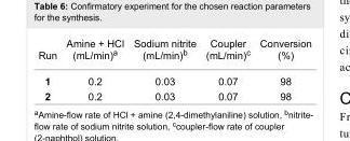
<table><tbody><tr><td>Run</td><td>Amine + HCl (mL/min)<sup>a</sup></td><td>Sodium nitrite (mL/min)<sup>b</sup></td><td>Coupler (mL/min)<sup>c</sup></td><td>Conversion (%)</td></tr><tr><td>1</td><td>0.2</td><td>0.03</td><td>0.07</td><td>98</td></tr><tr><td>2</td><td>0.2</td><td>0.03</td><td>0.07</td><td>98</td></tr></tbody></table>